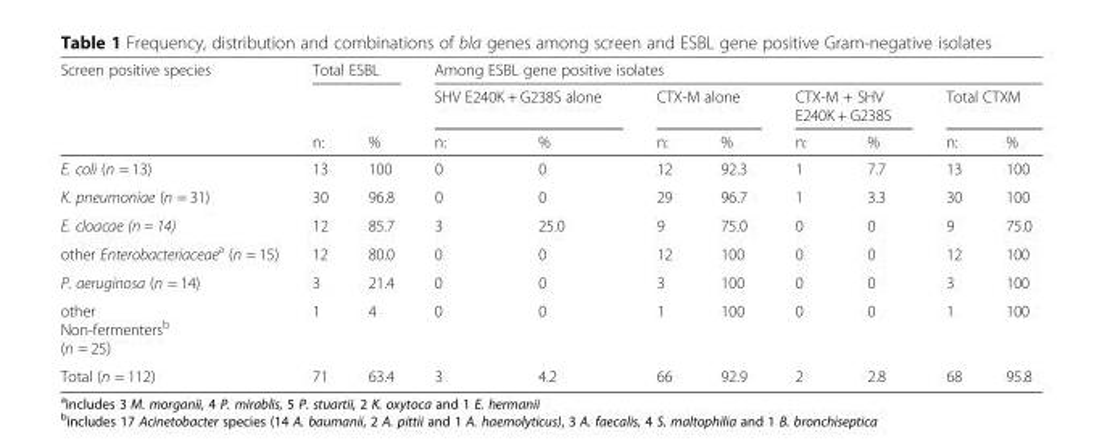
<table><thead><tr><td rowspan="3">Screen positive species</td><td colspan="2">Total ESBL</td><td colspan="8">Among ESBL gene positive isolates</td></tr><tr><td rowspan="2">n:</td><td rowspan="2">%</td><td colspan="2">SHV E240K + G238S alone</td><td colspan="2">CTX-M alone</td><td colspan="2">CTX-M + SHV E240K + G238S</td><td colspan="2">Total CTXM</td></tr><tr><td>n:</td><td>%</td><td>n:</td><td>%</td><td>n:</td><td>%</td><td>n:</td><td>%</td></tr></thead><tbody><tr><td>E. coli (n = 13)</td><td>13</td><td>100</td><td>0</td><td>0</td><td>12</td><td>92.3</td><td>1</td><td>7.7</td><td>13</td><td>100</td></tr><tr><td>K. pneumoniae (n = 31)</td><td>30</td><td>96.8</td><td>0</td><td>0</td><td>29</td><td>96.7</td><td>1</td><td>3.3</td><td>30</td><td>100</td></tr><tr><td>E. cloacae (n = 14)</td><td>12</td><td>85.7</td><td>3</td><td>25.0</td><td>9</td><td>75.0</td><td>0</td><td>0</td><td>9</td><td>75.0</td></tr><tr><td>other Enterobacteriaceae<sup>a</sup> (n = 15)</td><td>12</td><td>80.0</td><td>0</td><td>0</td><td>12</td><td>100</td><td>0</td><td>0</td><td>12</td><td>100</td></tr><tr><td>P. aeruginosa (n = 14)</td><td>3</td><td>21.4</td><td>0</td><td>0</td><td>3</td><td>100</td><td>0</td><td>0</td><td>3</td><td>100</td></tr><tr><td>other Non-fermenters<sup>b</sup> (n = 25)</td><td>1</td><td>4</td><td>0</td><td>0</td><td>1</td><td>100</td><td>0</td><td>0</td><td>1</td><td>100</td></tr><tr><td>Total (n = 112)</td><td>71</td><td>63.4</td><td>3</td><td>4.2</td><td>66</td><td>92.9</td><td>2</td><td>2.8</td><td>68</td><td>95.8</td></tr></tbody></table>